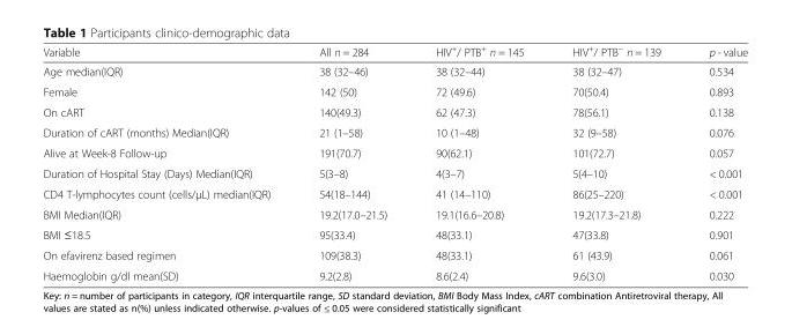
<table><thead><tr><td>Variable</td><td>All n = 284</td><td>HIV<sup>+</sup>/ PTB<sup>+</sup> n = 145</td><td>HIV<sup>+</sup>/ PTB<sup>−</sup> n = 139</td><td>p - value</td></tr></thead><tbody><tr><td>Age median(IQR)</td><td>38 (32–46)</td><td>38 (32–44)</td><td>38 (32–47)</td><td>0.534</td></tr><tr><td>Female</td><td>142 (50)</td><td>72 (49.6)</td><td>70(50.4)</td><td>0.893</td></tr><tr><td>On cART</td><td>140(49.3)</td><td>62 (47.3)</td><td>78(56.1)</td><td>0.138</td></tr><tr><td>Duration of cART (months) Median(IQR)</td><td>21 (1–58)</td><td>10 (1–48)</td><td>32 (9–58)</td><td>0.076</td></tr><tr><td>Alive at Week-8 Follow-up</td><td>191(70.7)</td><td>90(62.1)</td><td>101(72.7)</td><td>0.057</td></tr><tr><td>Duration of Hospital Stay (Days) Median(IQR)</td><td>5(3–8)</td><td>4(3–7)</td><td>5(4–10)</td><td>&lt; 0.001</td></tr><tr><td>CD4 T-lymphocytes count (cells/μL) median(IQR)</td><td>54(18–144)</td><td>41 (14–110)</td><td>86(25–220)</td><td>&lt; 0.001</td></tr><tr><td>BMI Median(IQR)</td><td>19.2(17.0–21.5)</td><td>19.1(16.6–20.8)</td><td>19.2(17.3–21.8)</td><td>0.222</td></tr><tr><td>BMI ≤18.5</td><td>95(33.4)</td><td>48(33.1)</td><td>47(33.8)</td><td>0.901</td></tr><tr><td>On efavirenz based regimen</td><td>109(38.3)</td><td>48(33.1)</td><td>61 (43.9)</td><td>0.061</td></tr><tr><td>Haemoglobin g/dl mean(SD)</td><td>9.2(2.8)</td><td>8.6(2.4)</td><td>9.6(3.0)</td><td>0.030</td></tr></tbody></table>